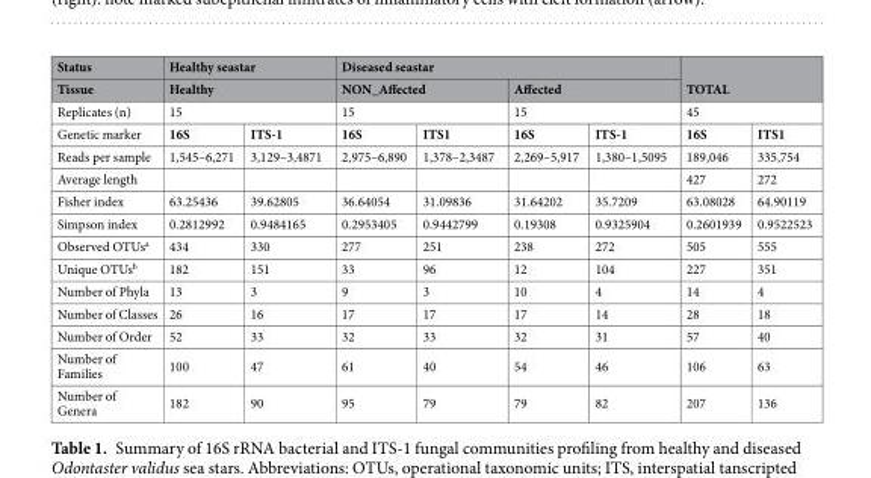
<table><thead><tr><td rowspan="4">Status Tissue Replicates (n) Genetic marker</td><td rowspan="3" colspan="2">Healthy seastar Healthy 15</td><td colspan="4">Diseased seastar</td><td rowspan="3" colspan="2">TOTAL 45</td></tr><tr><td rowspan="2" colspan="2">NON_Affected 15</td><td rowspan="2" colspan="2">Affected 15</td></tr><tr></tr><tr><td>16S</td><td>ITS-1</td><td>16S</td><td>ITS1</td><td>16S</td><td>ITS-1</td><td>16S</td><td>ITS1</td></tr></thead><tbody><tr><td>Reads per sample</td><td>1,545–6,271</td><td>3,129–3,4871</td><td>2,975–6,890</td><td>1,378–2,3487</td><td>2,269–5,917</td><td>1,380–1,5095</td><td>189,046</td><td>335,754</td></tr><tr><td>Average length</td><td></td><td></td><td></td><td></td><td></td><td></td><td>427</td><td>272</td></tr><tr><td>Fisher index</td><td>63.25436</td><td>39.62805</td><td>36.64054</td><td>31.09836</td><td>31.64202</td><td>35.7209</td><td>63.08028</td><td>64.90119</td></tr><tr><td>Simpson index</td><td>0.2812992</td><td>0.9484165</td><td>0.2953405</td><td>0.9442799</td><td>0.19308</td><td>0.9325904</td><td>0.2601939</td><td>0.9522523</td></tr><tr><td>Observed OTUs<sup>a</sup></td><td>434</td><td>330</td><td>277</td><td>251</td><td>238</td><td>272</td><td>505</td><td>555</td></tr><tr><td>Unique OTUs<sup>b</sup></td><td>182</td><td>151</td><td>33</td><td>96</td><td>12</td><td>104</td><td>227</td><td>351</td></tr><tr><td>Number of Phyla</td><td>13</td><td>3</td><td>9</td><td>3</td><td>10</td><td>4</td><td>14</td><td>4</td></tr><tr><td>Number of Classes</td><td>26</td><td>16</td><td>17</td><td>17</td><td>17</td><td>14</td><td>28</td><td>18</td></tr><tr><td>Number of Order</td><td>52</td><td>33</td><td>32</td><td>33</td><td>32</td><td>31</td><td>57</td><td>40</td></tr><tr><td>Number of Families</td><td>100</td><td>47</td><td>61</td><td>40</td><td>54</td><td>46</td><td>106</td><td>63</td></tr><tr><td>Number of Genera</td><td>182</td><td>90</td><td>95</td><td>79</td><td>79</td><td>82</td><td>207</td><td>136</td></tr></tbody></table>